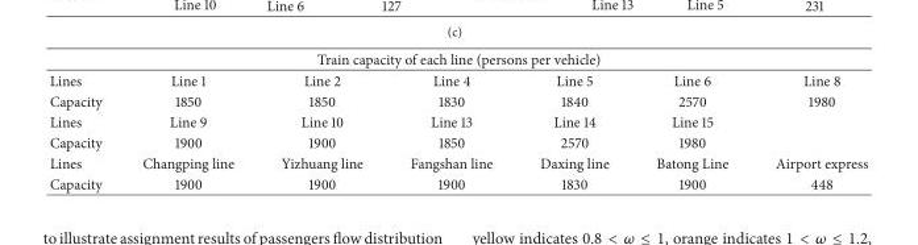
<table><tbody><tr><td colspan="7">Train capacity of each line (persons per vehicle)</td></tr><tr><td>Lines</td><td>Line 1</td><td>Line 2</td><td>Line 4</td><td>Line 5</td><td>Line 6</td><td>Line 8</td></tr><tr><td>Capacity</td><td>1850</td><td>1850</td><td>1830</td><td>1840</td><td>2570</td><td>1980</td></tr><tr><td>Lines</td><td>Line 9</td><td>Line 10</td><td>Line 13</td><td>Line 14</td><td>Line 15</td><td></td></tr><tr><td>Capacity</td><td>1900</td><td>1900</td><td>1850</td><td>2570</td><td>1980</td><td></td></tr><tr><td>Lines</td><td>Changping line</td><td>Yizhuang line</td><td>Fangshan line</td><td>Daxing line</td><td>Batong Line</td><td>Airport express</td></tr><tr><td>Capacity</td><td>1900</td><td>1900</td><td>1900</td><td>1830</td><td>1900</td><td>448</td></tr></tbody></table>